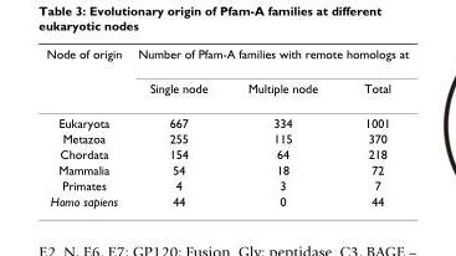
<table><thead><tr><td rowspan="2">Node of origin</td><td colspan="3">Number of Pfam-A families with remote homologs at</td></tr><tr><td>Single node</td><td>Multiple node</td><td>Total</td></tr></thead><tbody><tr><td>Eukaryota</td><td>667</td><td>334</td><td>1001</td></tr><tr><td>Metazoa</td><td>255</td><td>115</td><td>370</td></tr><tr><td>Chordata</td><td>154</td><td>64</td><td>218</td></tr><tr><td>Mammalia</td><td>54</td><td>18</td><td>72</td></tr><tr><td>Primates</td><td>4</td><td>3</td><td>7</td></tr><tr><td>Homo sapiens</td><td>44</td><td>0</td><td>44</td></tr></tbody></table>